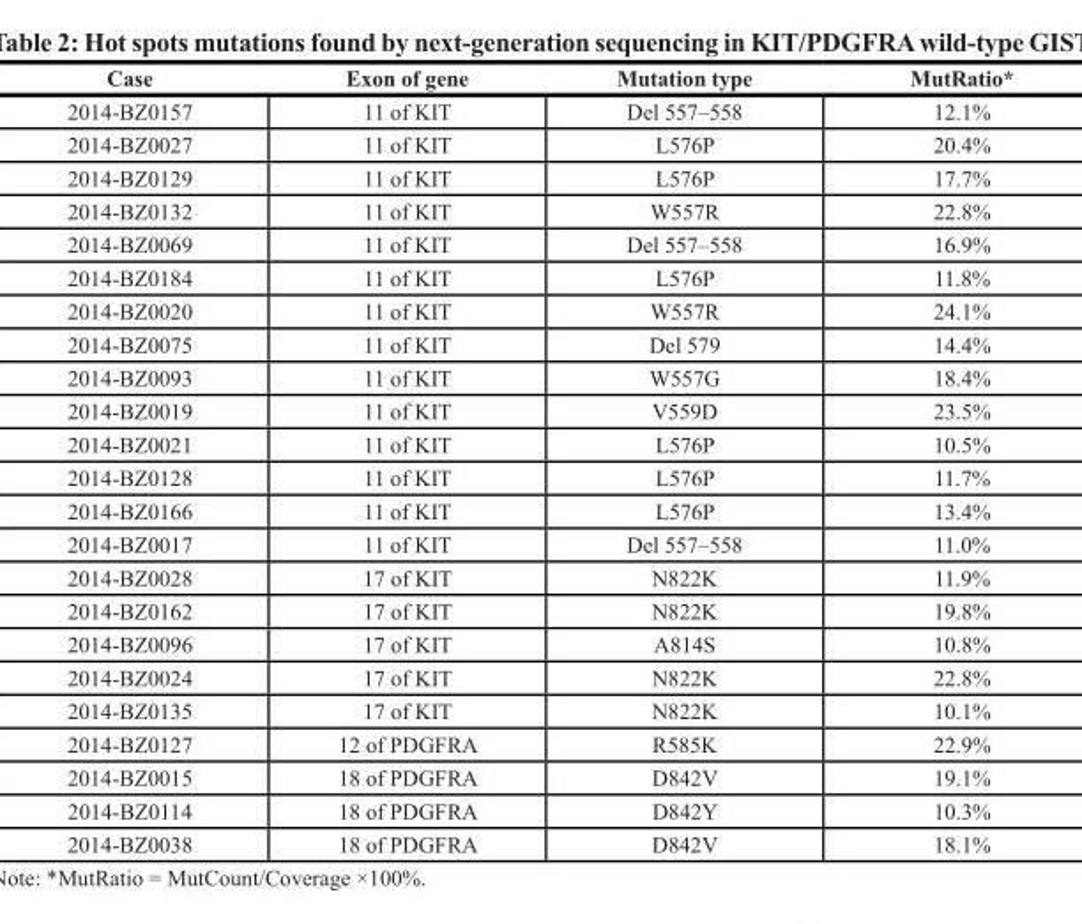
<table><thead><tr><td>Case</td><td>Exon of gene</td><td>Mutation type</td><td>MutRatio*</td></tr></thead><tbody><tr><td>2014-BZ0157</td><td>11 of KIT</td><td>Del 557–558</td><td>12.1%</td></tr><tr><td>2014-BZ0027</td><td>11 of KIT</td><td>L576P</td><td>20.4%</td></tr><tr><td>2014-BZ0129</td><td>11 of KIT</td><td>L576P</td><td>17.7%</td></tr><tr><td>2014-BZ0132</td><td>11 of KIT</td><td>W557R</td><td>22.8%</td></tr><tr><td>2014-BZ0069</td><td>11 of KIT</td><td>Del 557–558</td><td>16.9%</td></tr><tr><td>2014-BZ0184</td><td>11 of KIT</td><td>L576P</td><td>11.8%</td></tr><tr><td>2014-BZ0020</td><td>11 of KIT</td><td>W557R</td><td>24.1%</td></tr><tr><td>2014-BZ0075</td><td>11 of KIT</td><td>Del 579</td><td>14.4%</td></tr><tr><td>2014-BZ0093</td><td>11 of KIT</td><td>W557G</td><td>18.4%</td></tr><tr><td>2014-BZ0019</td><td>11 of KIT</td><td>V559D</td><td>23.5%</td></tr><tr><td>2014-BZ0021</td><td>11 of KIT</td><td>L576P</td><td>10.5%</td></tr><tr><td>2014-BZ0128</td><td>11 of KIT</td><td>L576P</td><td>11.7%</td></tr><tr><td>2014-BZ0166</td><td>11 of KIT</td><td>L576P</td><td>13.4%</td></tr><tr><td>2014-BZ0017</td><td>11 of KIT</td><td>Del 557–558</td><td>11.0%</td></tr><tr><td>2014-BZ0028</td><td>17 of KIT</td><td>N822K</td><td>11.9%</td></tr><tr><td>2014-BZ0162</td><td>17 of KIT</td><td>N822K</td><td>19.8%</td></tr><tr><td>2014-BZ0096</td><td>17 of KIT</td><td>A814S</td><td>10.8%</td></tr><tr><td>2014-BZ0024</td><td>17 of KIT</td><td>N822K</td><td>22.8%</td></tr><tr><td>2014-BZ0135</td><td>17 of KIT</td><td>N822K</td><td>10.1%</td></tr><tr><td>2014-BZ0127</td><td>12 of PDGFRA</td><td>R585K</td><td>22.9%</td></tr><tr><td>2014-BZ0015</td><td>18 of PDGFRA</td><td>D842V</td><td>19.1%</td></tr><tr><td>2014-BZ0114</td><td>18 of PDGFRA</td><td>D842Y</td><td>10.3%</td></tr><tr><td>2014-BZ0038</td><td>18 of PDGFRA</td><td>D842V</td><td>18.1%</td></tr></tbody></table>